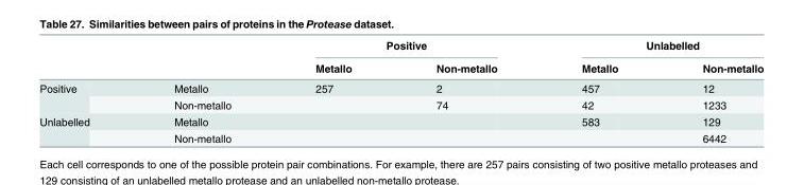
<table><thead><tr><td rowspan="2"></td><td rowspan="2"></td><td colspan="2">Positive</td><td colspan="2">Unlabelled</td></tr><tr><td>Metallo</td><td>Non-metallo</td><td>Metallo</td><td>Non-metallo</td></tr></thead><tbody><tr><td rowspan="2">Positive</td><td>Metallo</td><td>257</td><td>2</td><td>457</td><td>12</td></tr><tr><td>Non-metallo</td><td></td><td>74</td><td>42</td><td>1233</td></tr><tr><td rowspan="2">Unlabelled</td><td>Metallo</td><td></td><td></td><td>583</td><td>129</td></tr><tr><td>Non-metallo</td><td></td><td></td><td></td><td>6442</td></tr></tbody></table>